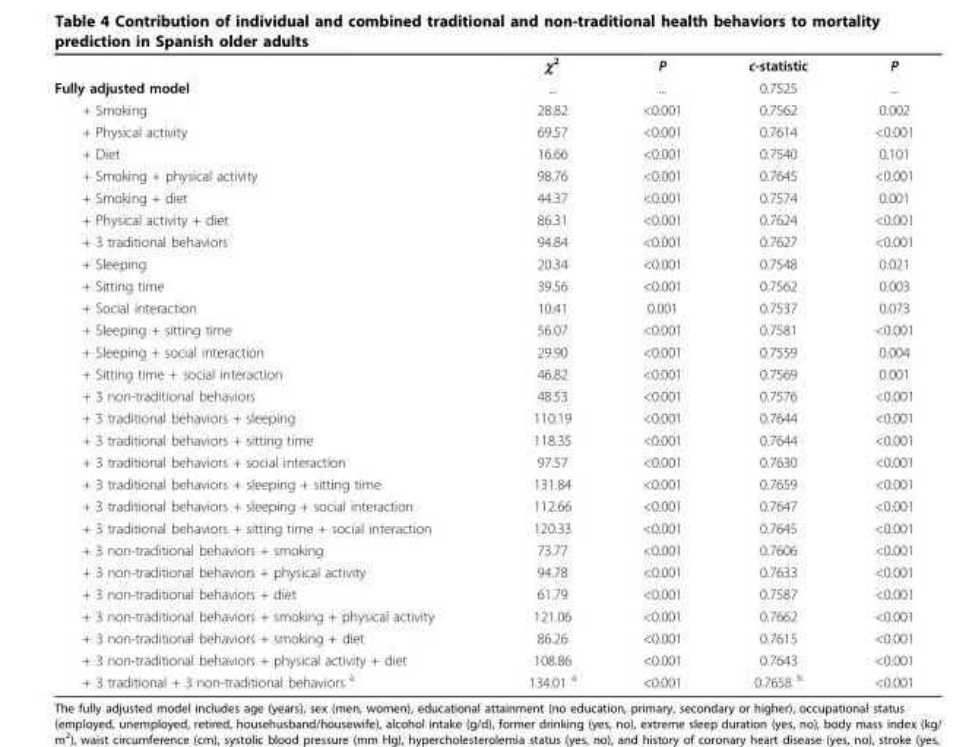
<table><thead><tr><td></td><td>χ<sup>2</sup></td><td>P</td><td>c-statistic</td><td>P</td></tr></thead><tbody><tr><td>Fully adjusted model</td><td>...</td><td>...</td><td>0.7525</td><td>...</td></tr><tr><td>+ Smoking</td><td>28.82</td><td>&lt;0.001</td><td>0.7562</td><td>0.002</td></tr><tr><td>+ Physical activity</td><td>69.57</td><td>&lt;0.001</td><td>0.7614</td><td>&lt;0.001</td></tr><tr><td>+ Diet</td><td>16.66</td><td>&lt;0.001</td><td>0.7540</td><td>0.101</td></tr><tr><td>+ Smoking + physical activity</td><td>98.76</td><td>&lt;0.001</td><td>0.7645</td><td>&lt;0.001</td></tr><tr><td>+ Smoking + diet</td><td>44.37</td><td>&lt;0.001</td><td>0.7574</td><td>0.001</td></tr><tr><td>+ Physical activity + diet</td><td>86.31</td><td>&lt;0.001</td><td>0.7624</td><td>&lt;0.001</td></tr><tr><td>+ 3 traditional behaviors</td><td>94.84</td><td>&lt;0.001</td><td>0.7627</td><td>&lt;0.001</td></tr><tr><td>+ Sleeping</td><td>20.34</td><td>&lt;0.001</td><td>0.7548</td><td>0.021</td></tr><tr><td>+ Sitting time</td><td>39.56</td><td>&lt;0.001</td><td>0.7562</td><td>0.003</td></tr><tr><td>+ Social interaction</td><td>10.41</td><td>0.001</td><td>0.7537</td><td>0.073</td></tr><tr><td>+ Sleeping + sitting time</td><td>56.07</td><td>&lt;0.001</td><td>0.7581</td><td>&lt;0.001</td></tr><tr><td>+ Sleeping + social interaction</td><td>29.90</td><td>&lt;0.001</td><td>0.7559</td><td>0.004</td></tr><tr><td>+ Sitting time + social interaction</td><td>46.82</td><td>&lt;0.001</td><td>0.7569</td><td>0.001</td></tr><tr><td>+ 3 non-traditional behaviors</td><td>48.53</td><td>&lt;0.001</td><td>0.7576</td><td>&lt;0.001</td></tr><tr><td>+ 3 traditional behaviors + sleeping</td><td>110.19</td><td>&lt;0.001</td><td>0.7644</td><td>&lt;0.001</td></tr><tr><td>+ 3 traditional behaviors + sitting time</td><td>118.35</td><td>&lt;0.001</td><td>0.7644</td><td>&lt;0.001</td></tr><tr><td>+ 3 traditional behaviors + social interaction</td><td>97.57</td><td>&lt;0.001</td><td>0.7630</td><td>&lt;0.001</td></tr><tr><td>+ 3 traditional behaviors + sleeping + sitting time</td><td>131.84</td><td>&lt;0.001</td><td>0.7659</td><td>&lt;0.001</td></tr><tr><td>+ 3 traditional behaviors + sleeping + social interaction</td><td>112.66</td><td>&lt;0.001</td><td>0.7647</td><td>&lt;0.001</td></tr><tr><td>+ 3 traditional behaviors + sitting time + social interaction</td><td>120.33</td><td>&lt;0.001</td><td>0.7645</td><td>&lt;0.001</td></tr><tr><td>+ 3 non-traditional behaviors + smoking</td><td>73.77</td><td>&lt;0.001</td><td>0.7606</td><td>&lt;0.001</td></tr><tr><td>+ 3 non-traditional behaviors + physical activity</td><td>94.78</td><td>&lt;0.001</td><td>0.7633</td><td>&lt;0.001</td></tr><tr><td>+ 3 non-traditional behaviors + diet</td><td>61.79</td><td>&lt;0.001</td><td>0.7587</td><td>&lt;0.001</td></tr><tr><td>+ 3 non-traditional behaviors + smoking + physical activity</td><td>121.06</td><td>&lt;0.001</td><td>0.7662</td><td>&lt;0.001</td></tr><tr><td>+ 3 non-traditional behaviors + smoking + diet</td><td>86.26</td><td>&lt;0.001</td><td>0.7615</td><td>&lt;0.001</td></tr><tr><td>+ 3 non-traditional behaviors + physical activity + diet</td><td>108.86</td><td>&lt;0.001</td><td>0.7643</td><td>&lt;0.001</td></tr><tr><td>+ 3 traditional + 3 non-traditional behaviors <sup>a</sup></td><td>134.01 <sup>a</sup></td><td>&lt;0.001</td><td>0.7658 <sup>b</sup></td><td>&lt;0.001</td></tr></tbody></table>